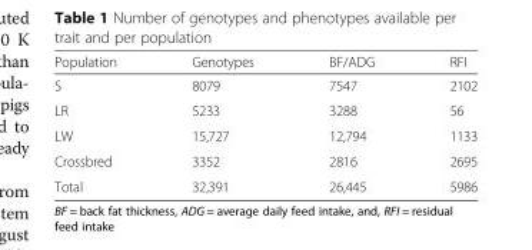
<table><thead><tr><td>Population</td><td>Genotypes</td><td>BF/ADG</td><td>RFI</td></tr></thead><tbody><tr><td>S</td><td>8079</td><td>7547</td><td>2102</td></tr><tr><td>LR</td><td>5233</td><td>3288</td><td>56</td></tr><tr><td>LW</td><td>15,727</td><td>12,794</td><td>1133</td></tr><tr><td>Crossbred</td><td>3352</td><td>2816</td><td>2695</td></tr><tr><td>Total</td><td>32,391</td><td>26,445</td><td>5986</td></tr></tbody></table>